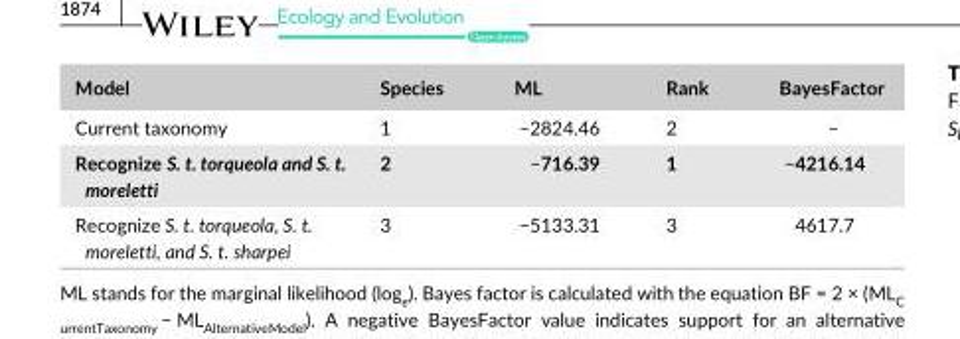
<table><thead><tr><td>Model</td><td>Species</td><td>ML</td><td>Rank</td><td>BayesFactor</td></tr></thead><tbody><tr><td>Current taxonomy</td><td>1</td><td>−2824.46</td><td>2</td><td>–</td></tr><tr><td>Recognize S. t. torqueola and S. t. moreletti</td><td>2</td><td>−716.39</td><td>1</td><td>−4216.14</td></tr><tr><td>Recognize S. t. torqueola, S. t. moreletti, and S. t. sharpei</td><td>3</td><td>−5133.31</td><td>3</td><td>4617.7</td></tr></tbody></table>